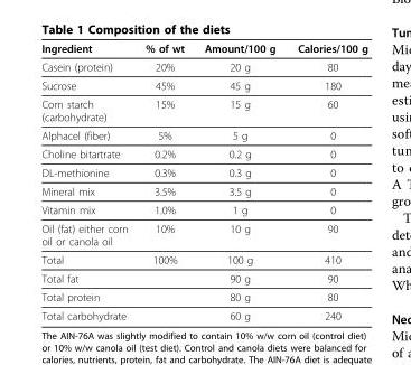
<table><thead><tr><td>Ingredient</td><td>% of wt</td><td>Amount/100 g</td><td>Calories/100 g</td></tr></thead><tbody><tr><td>Casein (protein)</td><td>20%</td><td>20 g</td><td>80</td></tr><tr><td>Sucrose</td><td>45%</td><td>45 g</td><td>180</td></tr><tr><td>Corn starch (carbohydrate)</td><td>15%</td><td>15 g</td><td>60</td></tr><tr><td>Alphacel (fiber)</td><td>5%</td><td>5 g</td><td>0</td></tr><tr><td>Choline bitartrate</td><td>0.2%</td><td>0.2 g</td><td>0</td></tr><tr><td>DL-methionine</td><td>0.3%</td><td>0.3 g</td><td>0</td></tr><tr><td>Mineral mix</td><td>3.5%</td><td>3.5 g</td><td>0</td></tr><tr><td>Vitamin mix</td><td>1.0%</td><td>1 g</td><td>0</td></tr><tr><td>Oil (fat) either corn oil or canola oil</td><td>10%</td><td>10 g</td><td>90</td></tr><tr><td>Total</td><td>100%</td><td>100 g</td><td>410</td></tr><tr><td>Total fat</td><td></td><td>90 g</td><td>90</td></tr><tr><td>Total protein</td><td></td><td>80 g</td><td>80</td></tr><tr><td>Total carbohydrate</td><td></td><td>60 g</td><td>240</td></tr></tbody></table>